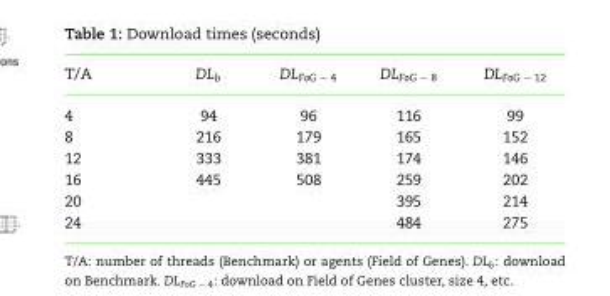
<table><thead><tr><td>T/A</td><td>DL<sub>b</sub></td><td>DL<sub>FoG − 4</sub></td><td>DL<sub>FoG − 8</sub></td><td>DL<sub>FoG − 12</sub></td></tr></thead><tbody><tr><td>4</td><td>94</td><td>96</td><td>116</td><td>99</td></tr><tr><td>8</td><td>216</td><td>179</td><td>165</td><td>152</td></tr><tr><td>12</td><td>333</td><td>381</td><td>174</td><td>146</td></tr><tr><td>16</td><td>445</td><td>508</td><td>259</td><td>202</td></tr><tr><td>20</td><td></td><td></td><td>395</td><td>214</td></tr><tr><td>24</td><td></td><td></td><td>484</td><td>275</td></tr></tbody></table>